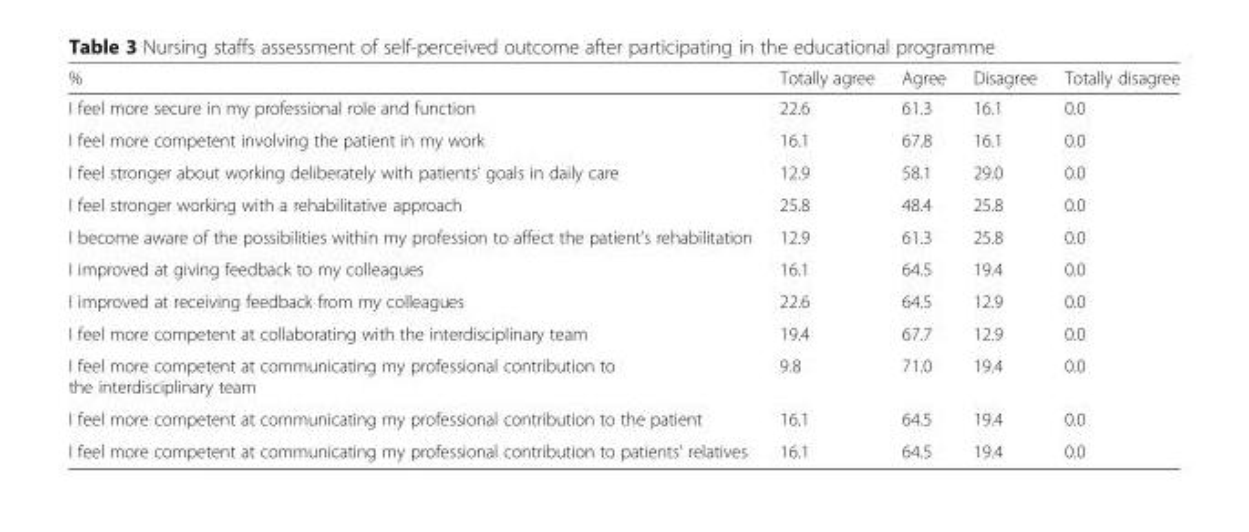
<table><thead><tr><td>%</td><td>Totally agree</td><td>Agree</td><td>Disagree</td><td>Totally disagree</td></tr></thead><tbody><tr><td>I feel more secure in my professional role and function</td><td>22.6</td><td>61.3</td><td>16.1</td><td>0.0</td></tr><tr><td>I feel more competent involving the patient in my work</td><td>16.1</td><td>67.8</td><td>16.1</td><td>0.0</td></tr><tr><td>I feel stronger about working deliberately with patients’ goals in daily care</td><td>12.9</td><td>58.1</td><td>29.0</td><td>0.0</td></tr><tr><td>I feel stronger working with a rehabilitative approach</td><td>25.8</td><td>48.4</td><td>25.8</td><td>0.0</td></tr><tr><td>I become aware of the possibilities within my profession to affect the patient’s rehabilitation</td><td>12.9</td><td>61.3</td><td>25.8</td><td>0.0</td></tr><tr><td>I improved at giving feedback to my colleagues</td><td>16.1</td><td>64.5</td><td>19.4</td><td>0.0</td></tr><tr><td>I improved at receiving feedback from my colleagues</td><td>22.6</td><td>64.5</td><td>12.9</td><td>0.0</td></tr><tr><td>I feel more competent at collaborating with the interdisciplinary team</td><td>19.4</td><td>67.7</td><td>12.9</td><td>0.0</td></tr><tr><td>I feel more competent at communicating my professional contribution to the interdisciplinary team</td><td>9.8</td><td>71.0</td><td>19.4</td><td>0.0</td></tr><tr><td>I feel more competent at communicating my professional contribution to the patient</td><td>16.1</td><td>64.5</td><td>19.4</td><td>0.0</td></tr><tr><td>I feel more competent at communicating my professional contribution to patients’ relatives</td><td>16.1</td><td>64.5</td><td>19.4</td><td>0.0</td></tr></tbody></table>